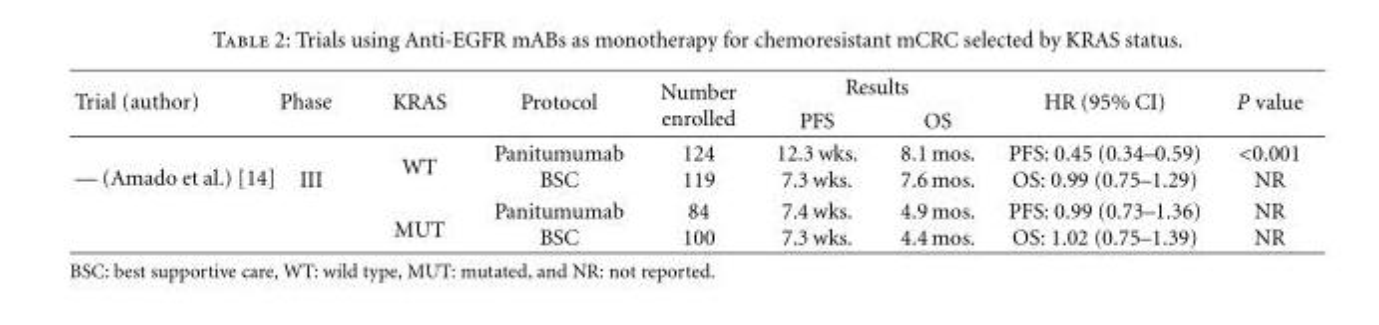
<table><thead><tr><td rowspan="2">Trial (author)</td><td rowspan="2">Phase</td><td rowspan="2">KRAS</td><td rowspan="2">Protocol</td><td rowspan="2">Number enrolled</td><td colspan="2">Results</td><td rowspan="2">HR (95% CI)</td><td rowspan="2">P value</td></tr><tr><td>PFS</td><td>OS</td></tr></thead><tbody><tr><td rowspan="2">— (Amado et al.) [14]</td><td rowspan="2">III</td><td>WT</td><td>Panitumumab BSC</td><td>124 119</td><td>12.3 wks. 7.3 wks.</td><td>8.1 mos. 7.6 mos.</td><td>PFS: 0.45 (0.34–0.59) OS: 0.99 (0.75–1.29)</td><td>&lt;0.001 NR</td></tr><tr><td>MUT</td><td>Panitumumab BSC</td><td>84 100</td><td>7.4 wks. 7.3 wks.</td><td>4.9 mos. 4.4 mos.</td><td>PFS: 0.99 (0.73–1.36) OS: 1.02 (0.75–1.39)</td><td>NR NR</td></tr></tbody></table>